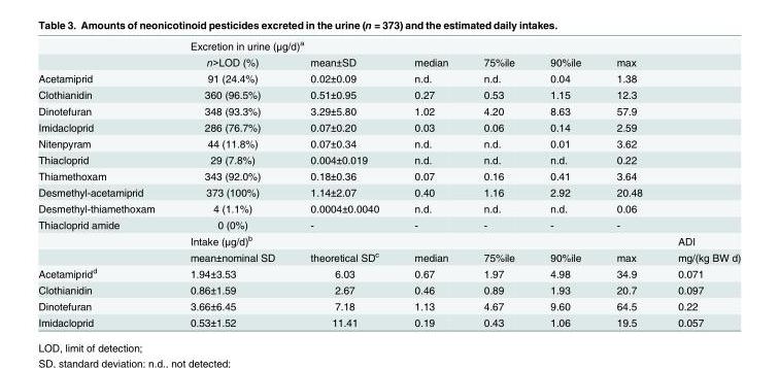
<table><thead><tr><td rowspan="2"></td><td colspan="2">Excretion in urine (μg/d)<sup>a</sup></td><td rowspan="2">median</td><td rowspan="2">75%ile</td><td rowspan="2">90%ile</td><td rowspan="2">max</td><td rowspan="2"></td></tr><tr><td>n&gt;LOD (%)</td><td>mean±SD</td></tr></thead><tbody><tr><td>Acetamiprid</td><td>91 (24.4%)</td><td>0.02±0.09</td><td>n.d.</td><td>n.d.</td><td>0.04</td><td>1.38</td><td></td></tr><tr><td>Clothianidin</td><td>360 (96.5%)</td><td>0.51±0.95</td><td>0.27</td><td>0.53</td><td>1.15</td><td>12.3</td><td></td></tr><tr><td>Dinotefuran</td><td>348 (93.3%)</td><td>3.29±5.80</td><td>1.02</td><td>4.20</td><td>8.63</td><td>57.9</td><td></td></tr><tr><td>Imidacloprid</td><td>286 (76.7%)</td><td>0.07±0.20</td><td>0.03</td><td>0.06</td><td>0.14</td><td>2.59</td><td></td></tr><tr><td>Nitenpyram</td><td>44 (11.8%)</td><td>0.07±0.34</td><td>n.d.</td><td>n.d.</td><td>0.01</td><td>3.62</td><td></td></tr><tr><td>Thiacloprid</td><td>29 (7.8%)</td><td>0.004±0.019</td><td>n.d.</td><td>n.d.</td><td>n.d.</td><td>0.22</td><td></td></tr><tr><td>Thiamethoxam</td><td>343 (92.0%)</td><td>0.18±0.36</td><td>0.07</td><td>0.16</td><td>0.41</td><td>3.64</td><td></td></tr><tr><td>Desmethyl-acetamiprid</td><td>373 (100%)</td><td>1.14±2.07</td><td>0.40</td><td>1.16</td><td>2.92</td><td>20.48</td><td></td></tr><tr><td>Desmethyl-thiamethoxam</td><td>4 (1.1%)</td><td>0.0004±0.0040</td><td>n.d.</td><td>n.d.</td><td>n.d.</td><td>0.06</td><td></td></tr><tr><td rowspan="3">Thiacloprid amide</td><td>0 (0%)</td><td>-</td><td>-</td><td>-</td><td>-</td><td>-</td><td></td></tr><tr><td>Intake (μg/d)<sup>b</sup></td><td></td><td></td><td></td><td></td><td></td><td>ADI</td></tr><tr><td>mean±nominal SD</td><td>theoretical SD<sup>c</sup></td><td>median</td><td>75%ile</td><td>90%ile</td><td>max</td><td>mg/(kg BW d)</td></tr><tr><td>Acetamiprid<sup>d</sup></td><td>1.94±3.53</td><td>6.03</td><td>0.67</td><td>1.97</td><td>4.98</td><td>34.9</td><td>0.071</td></tr><tr><td>Clothianidin</td><td>0.86±1.59</td><td>2.67</td><td>0.46</td><td>0.89</td><td>1.93</td><td>20.7</td><td>0.097</td></tr><tr><td>Dinotefuran</td><td>3.66±6.45</td><td>7.18</td><td>1.13</td><td>4.67</td><td>9.60</td><td>64.5</td><td>0.22</td></tr><tr><td>Imidacloprid</td><td>0.53±1.52</td><td>11.41</td><td>0.19</td><td>0.43</td><td>1.06</td><td>19.5</td><td>0.057</td></tr></tbody></table>